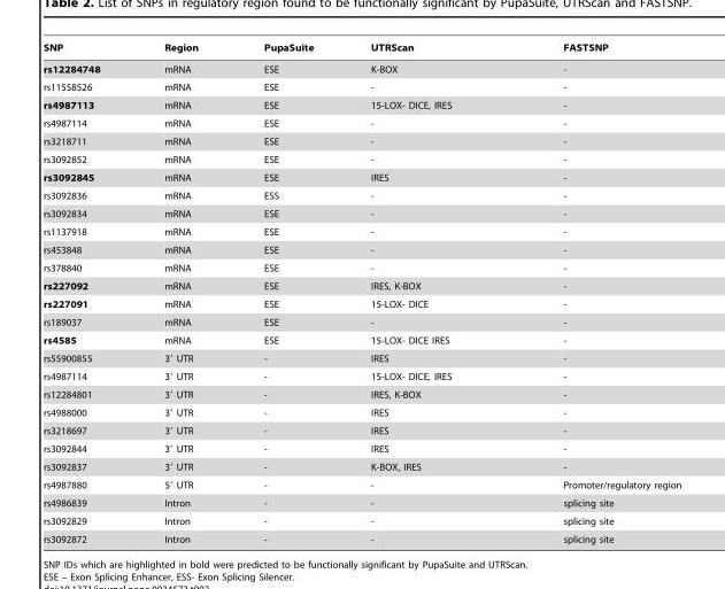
<table><thead><tr><td>SNP</td><td>Region</td><td>PupaSuite</td><td>UTRScan</td><td>FASTSNP</td></tr></thead><tbody><tr><td>rs12284748</td><td>mRNA</td><td>ESE</td><td>K-BOX</td><td>-</td></tr><tr><td>rs11558526</td><td>mRNA</td><td>ESE</td><td>-</td><td>-</td></tr><tr><td>rs4987113</td><td>mRNA</td><td>ESE</td><td>15-LOX- DICE, IRES</td><td>-</td></tr><tr><td>rs4987114</td><td>mRNA</td><td>ESE</td><td>-</td><td>-</td></tr><tr><td>rs3218711</td><td>mRNA</td><td>ESE</td><td>-</td><td>-</td></tr><tr><td>rs3092852</td><td>mRNA</td><td>ESE</td><td>-</td><td>-</td></tr><tr><td>rs3092845</td><td>mRNA</td><td>ESE</td><td>IRES</td><td>-</td></tr><tr><td>rs3092836</td><td>mRNA</td><td>ESS</td><td>-</td><td>-</td></tr><tr><td>rs3092834</td><td>mRNA</td><td>ESE</td><td>-</td><td>-</td></tr><tr><td>rs1137918</td><td>mRNA</td><td>ESE</td><td>-</td><td>-</td></tr><tr><td>rs453848</td><td>mRNA</td><td>ESE</td><td>-</td><td>-</td></tr><tr><td>rs378840</td><td>mRNA</td><td>ESE</td><td>-</td><td>-</td></tr><tr><td>rs227092</td><td>mRNA</td><td>ESE</td><td>IRES, K-BOX</td><td>-</td></tr><tr><td>rs227091</td><td>mRNA</td><td>ESE</td><td>15-LOX- DICE</td><td>-</td></tr><tr><td>rs189037</td><td>mRNA</td><td>ESE</td><td>-</td><td>-</td></tr><tr><td>rs4585</td><td>mRNA</td><td>ESE</td><td>15-LOX- DICE IRES</td><td>-</td></tr><tr><td>rs55900855</td><td>3′ UTR</td><td>-</td><td>IRES</td><td>-</td></tr><tr><td>rs4987114</td><td>3′ UTR</td><td>-</td><td>15-LOX- DICE, IRES</td><td>-</td></tr><tr><td>rs12284801</td><td>3′ UTR</td><td>-</td><td>IRES, K-BOX</td><td>-</td></tr><tr><td>rs4988000</td><td>3′ UTR</td><td>-</td><td>IRES</td><td>-</td></tr><tr><td>rs3218697</td><td>3′ UTR</td><td>-</td><td>IRES</td><td>-</td></tr><tr><td>rs3092844</td><td>3′ UTR</td><td>-</td><td>IRES</td><td>-</td></tr><tr><td>rs3092837</td><td>3′ UTR</td><td>-</td><td>K-BOX, IRES</td><td>-</td></tr><tr><td>rs4987880</td><td>5′ UTR</td><td>-</td><td>-</td><td>Promoter/regulatory region</td></tr><tr><td>rs4986839</td><td>Intron</td><td>-</td><td>-</td><td>splicing site</td></tr><tr><td>rs3092829</td><td>Intron</td><td>-</td><td>-</td><td>splicing site</td></tr><tr><td>rs3092872</td><td>Intron</td><td>-</td><td>-</td><td>splicing site</td></tr></tbody></table>